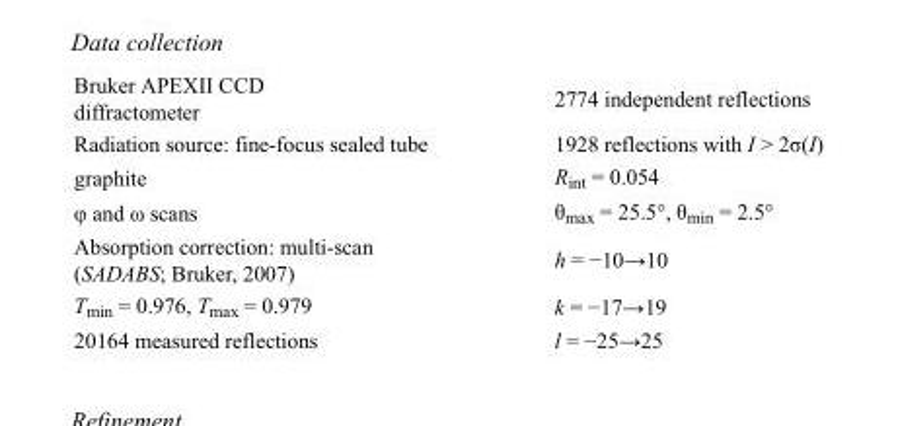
<table><tbody><tr><td>Bruker APEXII CCD diffractometer</td><td>2774 independent reflections</td></tr><tr><td>Radiation source: fine-focus sealed tube</td><td>1928 reflections with I &gt; 2σ(I)</td></tr><tr><td>graphite</td><td>R<sub>int</sub> = 0.054</td></tr><tr><td>φ and ω scans</td><td>θ<sub>max</sub> = 25.5°, θ<sub>min</sub> = 2.5°</td></tr><tr><td>Absorption correction: multi-scan (SADABS; Bruker, 2007)</td><td>h = −10→10</td></tr><tr><td>T<sub>min</sub> = 0.976, T<sub>max</sub> = 0.979</td><td>k = −17→19</td></tr><tr><td>20164 measured reflections</td><td>l = −25→25</td></tr></tbody></table>